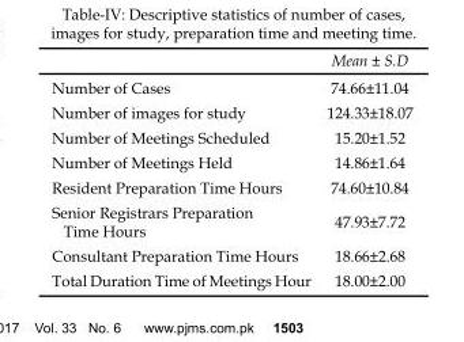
<table><thead><tr><td></td><td>Mean ± S.D</td></tr></thead><tbody><tr><td>Number of Cases</td><td>74.66±11.04</td></tr><tr><td>Number of images for study</td><td>124.33±18.07</td></tr><tr><td>Number of Meetings Scheduled</td><td>15.20±1.52</td></tr><tr><td>Number of Meetings Held</td><td>14.86±1.64</td></tr><tr><td>Resident Preparation Time Hours</td><td>74.60±10.84</td></tr><tr><td>Senior Registrars Preparation Time Hours</td><td>47.93±7.72</td></tr><tr><td>Consultant Preparation Time Hours</td><td>18.66±2.68</td></tr><tr><td>Total Duration Time of Meetings Hour</td><td>18.00±2.00</td></tr></tbody></table>